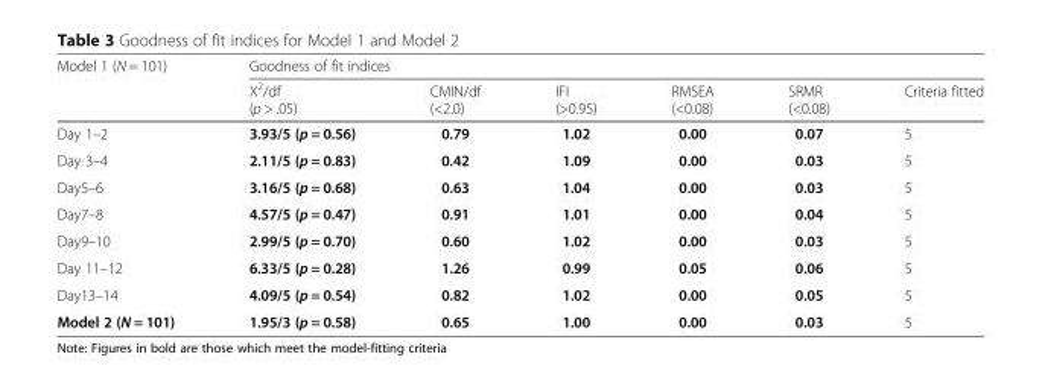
<table><thead><tr><td rowspan="2">Model 1 (N = 101)</td><td colspan="6">Goodness of fit indices</td></tr><tr><td>X<sup>2</sup>/df (p &gt; .05)</td><td>CMIN/df (&lt;2.0)</td><td>IFI (&gt;0.95)</td><td>RMSEA (&lt;0.08)</td><td>SRMR (&lt;0.08)</td><td>Criteria fitted</td></tr></thead><tbody><tr><td>Day 1–2</td><td>3.93/5 (p = 0.56)</td><td>0.79</td><td>1.02</td><td>0.00</td><td>0.07</td><td>5</td></tr><tr><td>Day 3–4</td><td>2.11/5 (p = 0.83)</td><td>0.42</td><td>1.09</td><td>0.00</td><td>0.03</td><td>5</td></tr><tr><td>Day5–6</td><td>3.16/5 (p = 0.68)</td><td>0.63</td><td>1.04</td><td>0.00</td><td>0.03</td><td>5</td></tr><tr><td>Day7–8</td><td>4.57/5 (p = 0.47)</td><td>0.91</td><td>1.01</td><td>0.00</td><td>0.04</td><td>5</td></tr><tr><td>Day9–10</td><td>2.99/5 (p = 0.70)</td><td>0.60</td><td>1.02</td><td>0.00</td><td>0.03</td><td>5</td></tr><tr><td>Day 11–12</td><td>6.33/5 (p = 0.28)</td><td>1.26</td><td>0.99</td><td>0.05</td><td>0.06</td><td>5</td></tr><tr><td>Day13–14</td><td>4.09/5 (p = 0.54)</td><td>0.82</td><td>1.02</td><td>0.00</td><td>0.05</td><td>5</td></tr><tr><td>Model 2 (N = 101)</td><td>1.95/3 (p = 0.58)</td><td>0.65</td><td>1.00</td><td>0.00</td><td>0.03</td><td>5</td></tr></tbody></table>